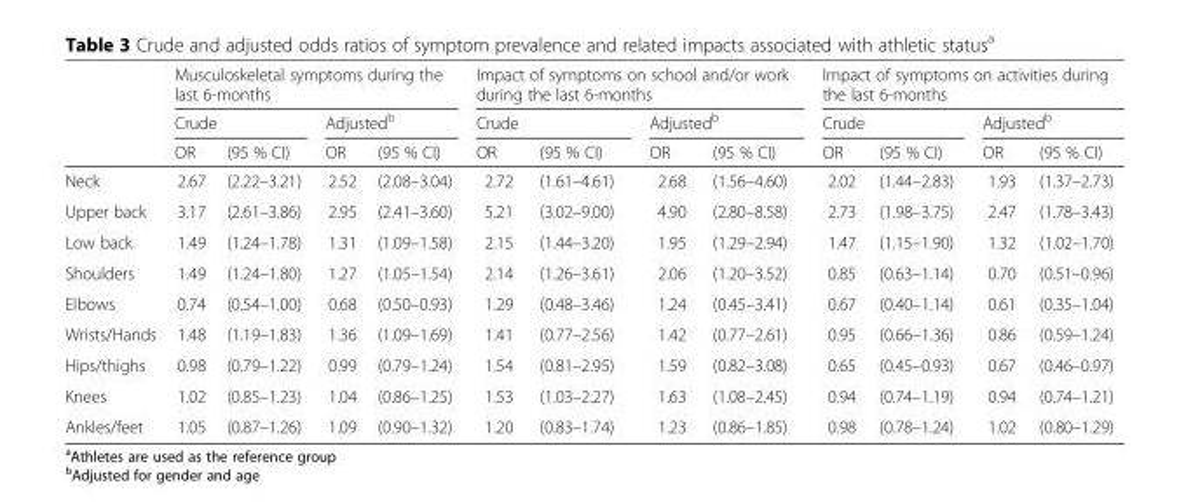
<table><thead><tr><td rowspan="3"></td><td colspan="4">Musculoskeletal symptoms during the last 6-months</td><td colspan="4">Impact of symptoms on school and/or work during the last 6-months</td><td colspan="4">Impact of symptoms on activities during the last 6-months</td></tr><tr><td colspan="2">Crude</td><td colspan="2">Adjusted<sup>b</sup></td><td colspan="2">Crude</td><td colspan="2">Adjusted<sup>b</sup></td><td colspan="2">Crude</td><td colspan="2">Adjusted<sup>b</sup></td></tr><tr><td>OR</td><td>(95 % CI)</td><td>OR</td><td>(95 % CI)</td><td>OR</td><td>(95 % CI)</td><td>OR</td><td>(95 % CI)</td><td>OR</td><td>(95 % CI)</td><td>OR</td><td>(95 % CI)</td></tr></thead><tbody><tr><td>Neck</td><td>2.67</td><td>(2.22–3.21)</td><td>2.52</td><td>(2.08–3.04)</td><td>2.72</td><td>(1.61–4.61)</td><td>2.68</td><td>(1.56–4.60)</td><td>2.02</td><td>(1.44–2.83)</td><td>1.93</td><td>(1.37–2.73)</td></tr><tr><td>Upper back</td><td>3.17</td><td>(2.61–3.86)</td><td>2.95</td><td>(2.41–3.60)</td><td>5.21</td><td>(3.02–9.00)</td><td>4.90</td><td>(2.80–8.58)</td><td>2.73</td><td>(1.98–3.75)</td><td>2.47</td><td>(1.78–3.43)</td></tr><tr><td>Low back</td><td>1.49</td><td>(1.24–1.78)</td><td>1.31</td><td>(1.09–1.58)</td><td>2.15</td><td>(1.44–3.20)</td><td>1.95</td><td>(1.29–2.94)</td><td>1.47</td><td>(1.15–1.90)</td><td>1.32</td><td>(1.02–1.70)</td></tr><tr><td>Shoulders</td><td>1.49</td><td>(1.24–1.80)</td><td>1.27</td><td>(1.05–1.54)</td><td>2.14</td><td>(1.26–3.61)</td><td>2.06</td><td>(1.20–3.52)</td><td>0.85</td><td>(0.63–1.14)</td><td>0.70</td><td>(0.51–0.96)</td></tr><tr><td>Elbows</td><td>0.74</td><td>(0.54–1.00)</td><td>0.68</td><td>(0.50–0.93)</td><td>1.29</td><td>(0.48–3.46)</td><td>1.24</td><td>(0.45–3.41)</td><td>0.67</td><td>(0.40–1.14)</td><td>0.61</td><td>(0.35–1.04)</td></tr><tr><td>Wrists/Hands</td><td>1.48</td><td>(1.19–1.83)</td><td>1.36</td><td>(1.09–1.69)</td><td>1.41</td><td>(0.77–2.56)</td><td>1.42</td><td>(0.77–2.61)</td><td>0.95</td><td>(0.66–1.36)</td><td>0.86</td><td>(0.59–1.24)</td></tr><tr><td>Hips/thighs</td><td>0.98</td><td>(0.79–1.22)</td><td>0.99</td><td>(0.79–1.24)</td><td>1.54</td><td>(0.81–2.95)</td><td>1.59</td><td>(0.82–3.08)</td><td>0.65</td><td>(0.45–0.93)</td><td>0.67</td><td>(0.46–0.97)</td></tr><tr><td>Knees</td><td>1.02</td><td>(0.85–1.23)</td><td>1.04</td><td>(0.86–1.25)</td><td>1.53</td><td>(1.03–2.27)</td><td>1.63</td><td>(1.08–2.45)</td><td>0.94</td><td>(0.74–1.19)</td><td>0.94</td><td>(0.74–1.21)</td></tr><tr><td>Ankles/feet</td><td>1.05</td><td>(0.87–1.26)</td><td>1.09</td><td>(0.90–1.32)</td><td>1.20</td><td>(0.83–1.74)</td><td>1.23</td><td>(0.86–1.85)</td><td>0.98</td><td>(0.78–1.24)</td><td>1.02</td><td>(0.80–1.29)</td></tr></tbody></table>